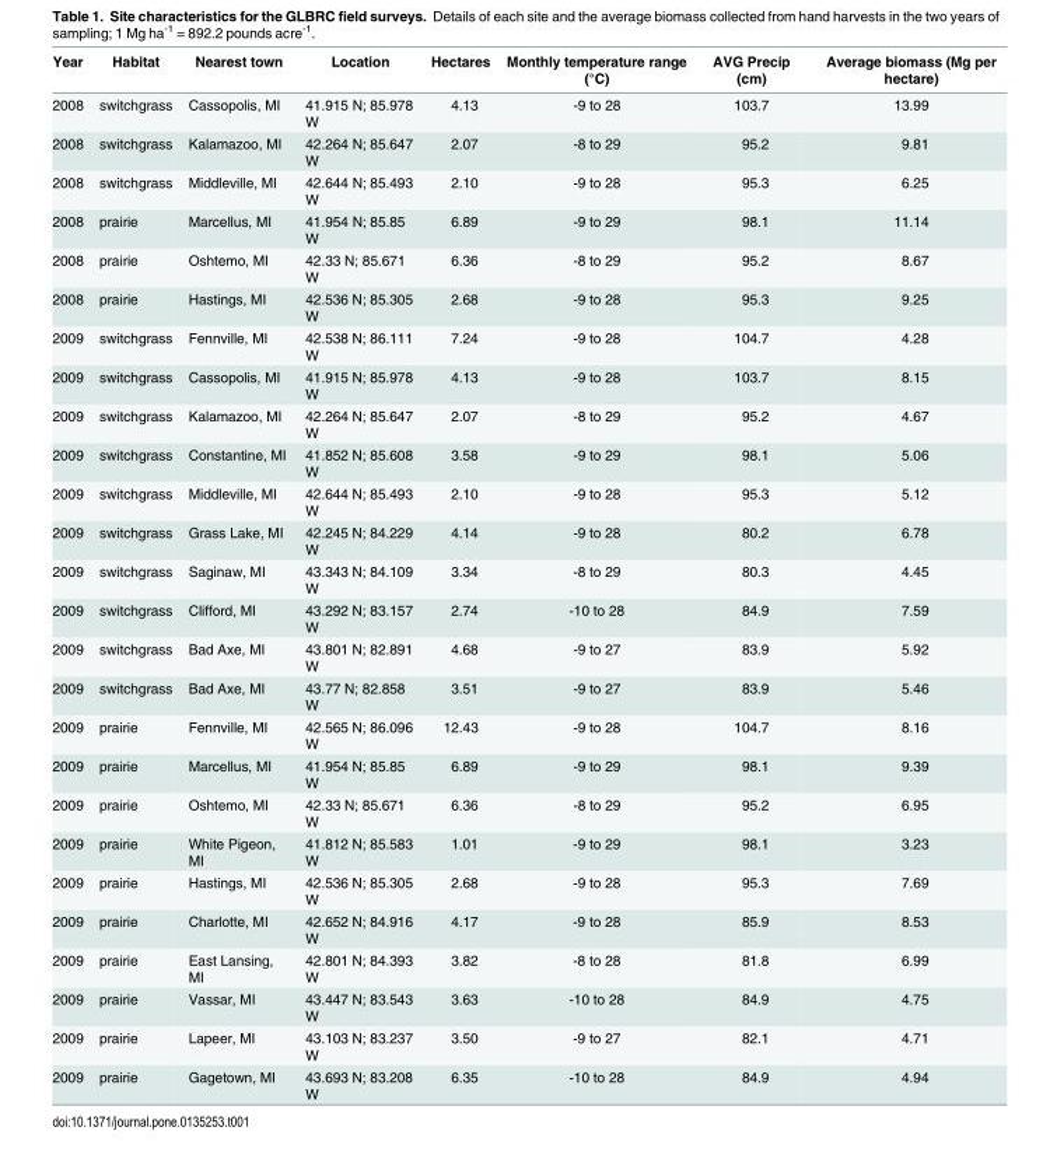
<table><thead><tr><td>Year</td><td>Habitat</td><td>Nearest town</td><td>Location</td><td>Hectares</td><td>Monthly temperature range (°C)</td><td>AVG Precip (cm)</td><td>Average biomass (Mg per hectare)</td></tr></thead><tbody><tr><td>2008</td><td>switchgrass</td><td>Cassopolis, MI</td><td>41.915 N; 85.978 W</td><td>4.13</td><td>-9 to 28</td><td>103.7</td><td>13.99</td></tr><tr><td>2008</td><td>switchgrass</td><td>Kalamazoo, MI</td><td>42.264 N; 85.647 W</td><td>2.07</td><td>-8 to 29</td><td>95.2</td><td>9.81</td></tr><tr><td>2008</td><td>switchgrass</td><td>Middleville, MI</td><td>42.644 N; 85.493 W</td><td>2.10</td><td>-9 to 28</td><td>95.3</td><td>6.25</td></tr><tr><td>2008</td><td>prairie</td><td>Marcellus, MI</td><td>41.954 N; 85.85 W</td><td>6.89</td><td>-9 to 29</td><td>98.1</td><td>11.14</td></tr><tr><td>2008</td><td>prairie</td><td>Oshtemo, MI</td><td>42.33 N; 85.671 W</td><td>6.36</td><td>-8 to 29</td><td>95.2</td><td>8.67</td></tr><tr><td>2008</td><td>prairie</td><td>Hastings, MI</td><td>42.536 N; 85.305 W</td><td>2.68</td><td>-9 to 28</td><td>95.3</td><td>9.25</td></tr><tr><td>2009</td><td>switchgrass</td><td>Fennville, MI</td><td>42.538 N; 86.111 W</td><td>7.24</td><td>-9 to 28</td><td>104.7</td><td>4.28</td></tr><tr><td>2009</td><td>switchgrass</td><td>Cassopolis, MI</td><td>41.915 N; 85.978 W</td><td>4.13</td><td>-9 to 28</td><td>103.7</td><td>8.15</td></tr><tr><td>2009</td><td>switchgrass</td><td>Kalamazoo, MI</td><td>42.264 N; 85.647 W</td><td>2.07</td><td>-8 to 29</td><td>95.2</td><td>4.67</td></tr><tr><td>2009</td><td>switchgrass</td><td>Constantine, MI</td><td>41.852 N; 85.608 W</td><td>3.58</td><td>-9 to 29</td><td>98.1</td><td>5.06</td></tr><tr><td>2009</td><td>switchgrass</td><td>Middleville, MI</td><td>42.644 N; 85.493 W</td><td>2.10</td><td>-9 to 28</td><td>95.3</td><td>5.12</td></tr><tr><td>2009</td><td>switchgrass</td><td>Grass Lake, MI</td><td>42.245 N; 84.229 W</td><td>4.14</td><td>-9 to 28</td><td>80.2</td><td>6.78</td></tr><tr><td>2009</td><td>switchgrass</td><td>Saginaw, MI</td><td>43.343 N; 84.109 W</td><td>3.34</td><td>-8 to 29</td><td>80.3</td><td>4.45</td></tr><tr><td>2009</td><td>switchgrass</td><td>Clifford, MI</td><td>43.292 N; 83.157 W</td><td>2.74</td><td>-10 to 28</td><td>84.9</td><td>7.59</td></tr><tr><td>2009</td><td>switchgrass</td><td>Bad Axe, MI</td><td>43.801 N; 82.891 W</td><td>4.68</td><td>-9 to 27</td><td>83.9</td><td>5.92</td></tr><tr><td>2009</td><td>switchgrass</td><td>Bad Axe, MI</td><td>43.77 N; 82.858 W</td><td>3.51</td><td>-9 to 27</td><td>83.9</td><td>5.46</td></tr><tr><td>2009</td><td>prairie</td><td>Fennville, MI</td><td>42.565 N; 86.096 W</td><td>12.43</td><td>-9 to 28</td><td>104.7</td><td>8.16</td></tr><tr><td>2009</td><td>prairie</td><td>Marcellus, MI</td><td>41.954 N; 85.85 W</td><td>6.89</td><td>-9 to 29</td><td>98.1</td><td>9.39</td></tr><tr><td>2009</td><td>prairie</td><td>Oshtemo, MI</td><td>42.33 N; 85.671 W</td><td>6.36</td><td>-8 to 29</td><td>95.2</td><td>6.95</td></tr><tr><td>2009</td><td>prairie</td><td>White Pigeon, MI</td><td>41.812 N; 85.583 W</td><td>1.01</td><td>-9 to 29</td><td>98.1</td><td>3.23</td></tr><tr><td>2009</td><td>prairie</td><td>Hastings, MI</td><td>42.536 N; 85.305 W</td><td>2.68</td><td>-9 to 28</td><td>95.3</td><td>7.69</td></tr><tr><td>2009</td><td>prairie</td><td>Charlotte, MI</td><td>42.652 N; 84.916 W</td><td>4.17</td><td>-9 to 28</td><td>85.9</td><td>8.53</td></tr><tr><td>2009</td><td>prairie</td><td>East Lansing, MI</td><td>42.801 N; 84.393 W</td><td>3.82</td><td>-8 to 28</td><td>81.8</td><td>6.99</td></tr><tr><td>2009</td><td>prairie</td><td>Vassar, MI</td><td>43.447 N; 83.543 W</td><td>3.63</td><td>-10 to 28</td><td>84.9</td><td>4.75</td></tr><tr><td>2009</td><td>prairie</td><td>Lapeer, MI</td><td>43.103 N; 83.237 W</td><td>3.50</td><td>-9 to 27</td><td>82.1</td><td>4.71</td></tr><tr><td>2009</td><td>prairie</td><td>Gagetown, MI</td><td>43.693 N; 83.208 W</td><td>6.35</td><td>-10 to 28</td><td>84.9</td><td>4.94</td></tr></tbody></table>